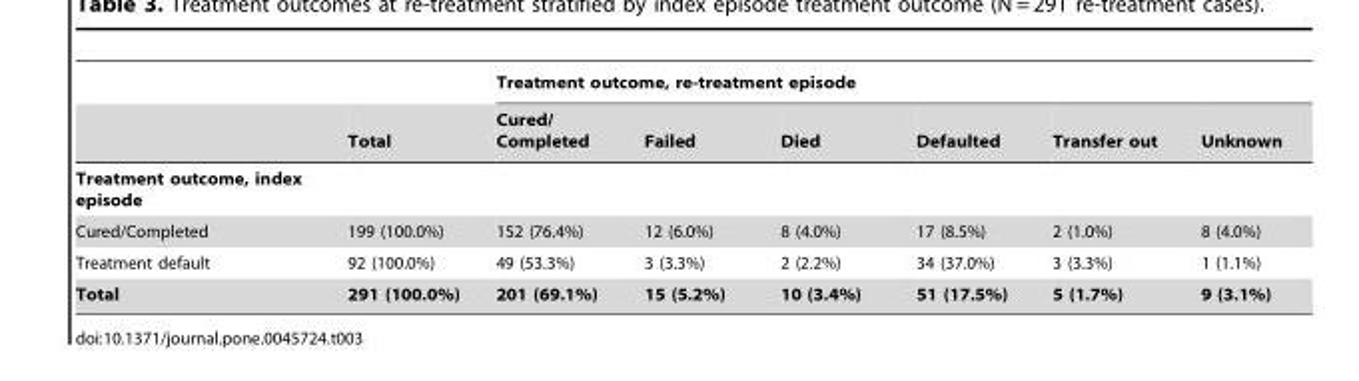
<table><thead><tr><td rowspan="2"></td><td rowspan="2">Total</td><td colspan="6">Treatment outcome, re-treatment episode</td></tr><tr><td>Cured/ Completed</td><td>Failed</td><td>Died</td><td>Defaulted</td><td>Transfer out</td><td>Unknown</td></tr></thead><tbody><tr><td colspan="8">Treatment outcome, index episode</td></tr><tr><td>Cured/Completed</td><td>199 (100.0%)</td><td>152 (76.4%)</td><td>12 (6.0%)</td><td>8 (4.0%)</td><td>17 (8.5%)</td><td>2 (1.0%)</td><td>8 (4.0%)</td></tr><tr><td>Treatment default</td><td>92 (100.0%)</td><td>49 (53.3%)</td><td>3 (3.3%)</td><td>2 (2.2%)</td><td>34 (37.0%)</td><td>3 (3.3%)</td><td>1 (1.1%)</td></tr><tr><td>Total</td><td>291 (100.0%)</td><td>201 (69.1%)</td><td>15 (5.2%)</td><td>10 (3.4%)</td><td>51 (17.5%)</td><td>5 (1.7%)</td><td>9 (3.1%)</td></tr></tbody></table>